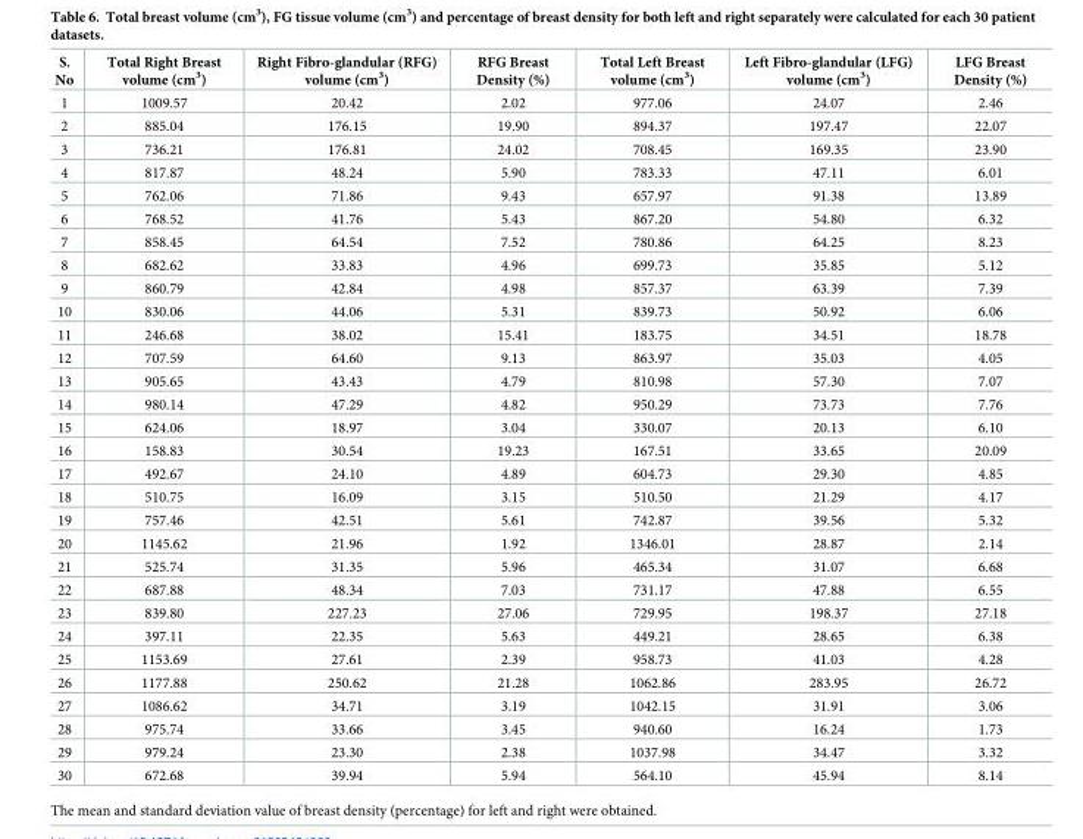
<table><thead><tr><td>S. No</td><td>Total Right Breast volume (cm<sup>3</sup>)</td><td>Right Fibro-glandular (RFG) volume (cm<sup>3</sup>)</td><td>RFG Breast Density (%)</td><td>Total Left Breast volume (cm<sup>3</sup>)</td><td>Left Fibro-glandular (LFG) volume (cm<sup>3</sup>)</td><td>LFG Breast Density (%)</td></tr></thead><tbody><tr><td>1</td><td>1009.57</td><td>20.42</td><td>2.02</td><td>977.06</td><td>24.07</td><td>2.46</td></tr><tr><td>2</td><td>885.04</td><td>176.15</td><td>19.90</td><td>894.37</td><td>197.47</td><td>22.07</td></tr><tr><td>3</td><td>736.21</td><td>176.81</td><td>24.02</td><td>708.45</td><td>169.35</td><td>23.90</td></tr><tr><td>4</td><td>817.87</td><td>48.24</td><td>5.90</td><td>783.33</td><td>47.11</td><td>6.01</td></tr><tr><td>5</td><td>762.06</td><td>71.86</td><td>9.43</td><td>657.97</td><td>91.38</td><td>13.89</td></tr><tr><td>6</td><td>768.52</td><td>41.76</td><td>5.43</td><td>867.20</td><td>54.80</td><td>6.32</td></tr><tr><td>7</td><td>858.45</td><td>64.54</td><td>7.52</td><td>780.86</td><td>64.25</td><td>8.23</td></tr><tr><td>8</td><td>682.62</td><td>33.83</td><td>4.96</td><td>699.73</td><td>35.85</td><td>5.12</td></tr><tr><td>9</td><td>860.79</td><td>42.84</td><td>4.98</td><td>857.37</td><td>63.39</td><td>7.39</td></tr><tr><td>10</td><td>830.06</td><td>44.06</td><td>5.31</td><td>839.73</td><td>50.92</td><td>6.06</td></tr><tr><td>11</td><td>246.68</td><td>38.02</td><td>15.41</td><td>183.75</td><td>34.51</td><td>18.78</td></tr><tr><td>12</td><td>707.59</td><td>64.60</td><td>9.13</td><td>863.97</td><td>35.03</td><td>4.05</td></tr><tr><td>13</td><td>905.65</td><td>43.43</td><td>4.79</td><td>810.98</td><td>57.30</td><td>7.07</td></tr><tr><td>14</td><td>980.14</td><td>47.29</td><td>4.82</td><td>950.29</td><td>73.73</td><td>7.76</td></tr><tr><td>15</td><td>624.06</td><td>18.97</td><td>3.04</td><td>330.07</td><td>20.13</td><td>6.10</td></tr><tr><td>16</td><td>158.83</td><td>30.54</td><td>19.23</td><td>167.51</td><td>33.65</td><td>20.09</td></tr><tr><td>17</td><td>492.67</td><td>24.10</td><td>4.89</td><td>604.73</td><td>29.30</td><td>4.85</td></tr><tr><td>18</td><td>510.75</td><td>16.09</td><td>3.15</td><td>510.50</td><td>21.29</td><td>4.17</td></tr><tr><td>19</td><td>757.46</td><td>42.51</td><td>5.61</td><td>742.87</td><td>39.56</td><td>5.32</td></tr><tr><td>20</td><td>1145.62</td><td>21.96</td><td>1.92</td><td>1346.01</td><td>28.87</td><td>2.14</td></tr><tr><td>21</td><td>525.74</td><td>31.35</td><td>5.96</td><td>465.34</td><td>31.07</td><td>6.68</td></tr><tr><td>22</td><td>687.88</td><td>48.34</td><td>7.03</td><td>731.17</td><td>47.88</td><td>6.55</td></tr><tr><td>23</td><td>839.80</td><td>227.23</td><td>27.06</td><td>729.95</td><td>198.37</td><td>27.18</td></tr><tr><td>24</td><td>397.11</td><td>22.35</td><td>5.63</td><td>449.21</td><td>28.65</td><td>6.38</td></tr><tr><td>25</td><td>1153.69</td><td>27.61</td><td>2.39</td><td>958.73</td><td>41.03</td><td>4.28</td></tr><tr><td>26</td><td>1177.88</td><td>250.62</td><td>21.28</td><td>1062.86</td><td>283.95</td><td>26.72</td></tr><tr><td>27</td><td>1086.62</td><td>34.71</td><td>3.19</td><td>1042.15</td><td>31.91</td><td>3.06</td></tr><tr><td>28</td><td>975.74</td><td>33.66</td><td>3.45</td><td>940.60</td><td>16.24</td><td>1.73</td></tr><tr><td>29</td><td>979.24</td><td>23.30</td><td>2.38</td><td>1037.98</td><td>34.47</td><td>3.32</td></tr><tr><td>30</td><td>672.68</td><td>39.94</td><td>5.94</td><td>564.10</td><td>45.94</td><td>8.14</td></tr></tbody></table>